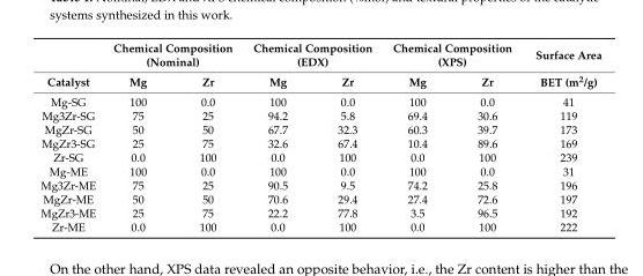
<table><thead><tr><td rowspan="2">Catalyst</td><td colspan="2">Chemical Composition (Nominal)</td><td colspan="2">Chemical Composition (EDX)</td><td colspan="2">Chemical Composition (XPS)</td><td rowspan="2">Surface Area BET (m<sup>2</sup>/g)</td></tr><tr><td>Mg</td><td>Zr</td><td>Mg</td><td>Zr</td><td>Mg</td><td>Zr</td></tr></thead><tbody><tr><td>Mg-SG</td><td>100</td><td>0.0</td><td>100</td><td>0.0</td><td>100</td><td>0.0</td><td>41</td></tr><tr><td>Mg3Zr-SG</td><td>75</td><td>25</td><td>94.2</td><td>5.8</td><td>69.4</td><td>30.6</td><td>119</td></tr><tr><td>MgZr-SG</td><td>50</td><td>50</td><td>67.7</td><td>32.3</td><td>60.3</td><td>39.7</td><td>173</td></tr><tr><td>MgZr3-SG</td><td>25</td><td>75</td><td>32.6</td><td>67.4</td><td>10.4</td><td>89.6</td><td>169</td></tr><tr><td>Zr-SG</td><td>0.0</td><td>100</td><td>0.0</td><td>100</td><td>0.0</td><td>100</td><td>239</td></tr><tr><td>Mg-ME</td><td>100</td><td>0.0</td><td>100</td><td>0.0</td><td>100</td><td>0.0</td><td>31</td></tr><tr><td>Mg3Zr-ME</td><td>75</td><td>25</td><td>90.5</td><td>9.5</td><td>74.2</td><td>25.8</td><td>196</td></tr><tr><td>MgZr-ME</td><td>50</td><td>50</td><td>70.6</td><td>29.4</td><td>27.4</td><td>72.6</td><td>197</td></tr><tr><td>MgZr3-ME</td><td>25</td><td>75</td><td>22.2</td><td>77.8</td><td>3.5</td><td>96.5</td><td>192</td></tr><tr><td>Zr-ME</td><td>0.0</td><td>100</td><td>0.0</td><td>100</td><td>0.0</td><td>100</td><td>222</td></tr></tbody></table>